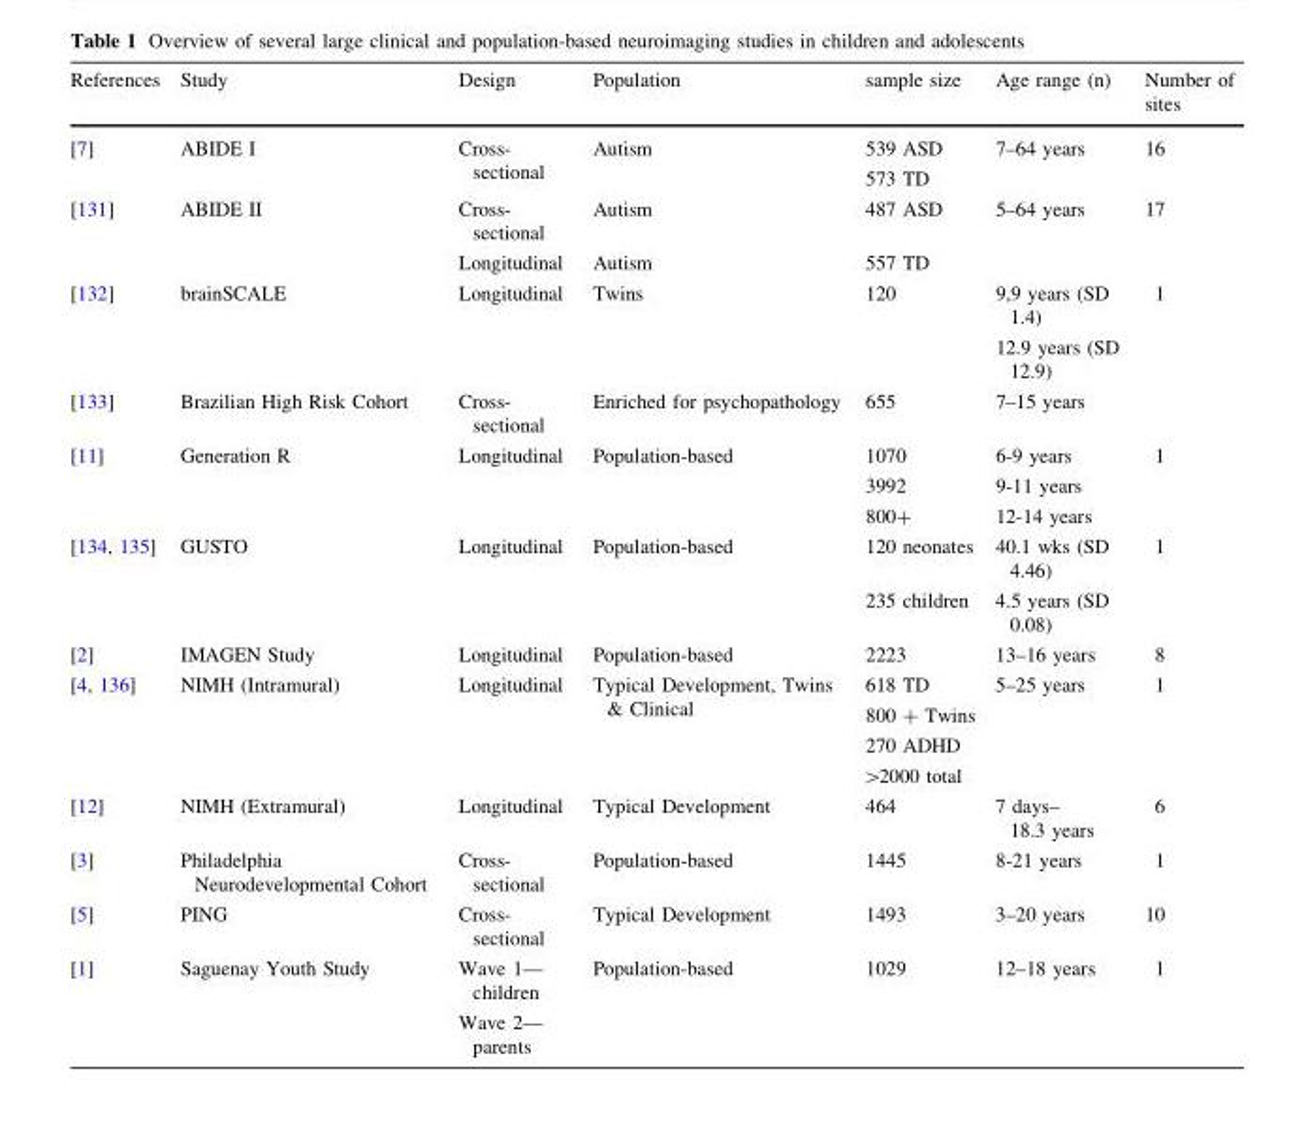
<table><thead><tr><td>References</td><td>Study</td><td>Design</td><td>Population</td><td>sample size</td><td>Age range (n)</td><td>Number of sites</td></tr></thead><tbody><tr><td rowspan="2">[7]</td><td rowspan="2">ABIDE I</td><td rowspan="2">Cross- sectional</td><td rowspan="2">Autism</td><td>539 ASD</td><td rowspan="2">7–64 years</td><td rowspan="2">16</td></tr><tr><td>573 TD</td></tr><tr><td rowspan="2">[131]</td><td rowspan="2">ABIDE II</td><td>Cross- sectional</td><td>Autism</td><td>487 ASD</td><td rowspan="2">5–64 years</td><td rowspan="2">17</td></tr><tr><td>Longitudinal</td><td>Autism</td><td>557 TD</td></tr><tr><td rowspan="2">[132]</td><td rowspan="2">brainSCALE</td><td rowspan="2">Longitudinal</td><td rowspan="2">Twins</td><td rowspan="2">120</td><td>9,9 years (SD 1.4)</td><td rowspan="2">1</td></tr><tr><td>12.9 years (SD 12.9)</td></tr><tr><td>[133]</td><td>Brazilian High Risk Cohort</td><td>Cross- sectional</td><td>Enriched for psychopathology</td><td>655</td><td>7–15 years</td><td></td></tr><tr><td rowspan="3">[11]</td><td rowspan="3">Generation R</td><td rowspan="3">Longitudinal</td><td rowspan="3">Population-based</td><td>1070</td><td>6-9 years</td><td rowspan="3">1</td></tr><tr><td>3992</td><td>9-11 years</td></tr><tr><td>800+</td><td>12-14 years</td></tr><tr><td rowspan="2">[134, 135]</td><td rowspan="2">GUSTO</td><td rowspan="2">Longitudinal</td><td rowspan="2">Population-based</td><td>120 neonates</td><td>40.1 wks (SD 4.46)</td><td rowspan="2">1</td></tr><tr><td>235 children</td><td>4.5 years (SD 0.08)</td></tr><tr><td>[2]</td><td>IMAGEN Study</td><td>Longitudinal</td><td>Population-based</td><td>2223</td><td>13–16 years</td><td>8</td></tr><tr><td rowspan="4">[4, 136]</td><td rowspan="4">NIMH (Intramural)</td><td rowspan="4">Longitudinal</td><td rowspan="4">Typical Development, Twins &amp; Clinical</td><td>618 TD</td><td rowspan="4">5–25 years</td><td rowspan="4">1</td></tr><tr><td>800 + Twins</td></tr><tr><td>270 ADHD</td></tr><tr><td>&gt;2000 total</td></tr><tr><td>[12]</td><td>NIMH (Extramural)</td><td>Longitudinal</td><td>Typical Development</td><td>464</td><td>7 days– 18.3 years</td><td>6</td></tr><tr><td>[3]</td><td>Philadelphia Neurodevelopmental Cohort</td><td>Cross- sectional</td><td>Population-based</td><td>1445</td><td>8-21 years</td><td>1</td></tr><tr><td>[5]</td><td>PING</td><td>Cross- sectional</td><td>Typical Development</td><td>1493</td><td>3–20 years</td><td>10</td></tr><tr><td rowspan="2">[1]</td><td rowspan="2">Saguenay Youth Study</td><td>Wave 1— children</td><td rowspan="2">Population-based</td><td rowspan="2">1029</td><td rowspan="2">12–18 years</td><td rowspan="2">1</td></tr><tr><td>Wave 2— parents</td></tr></tbody></table>